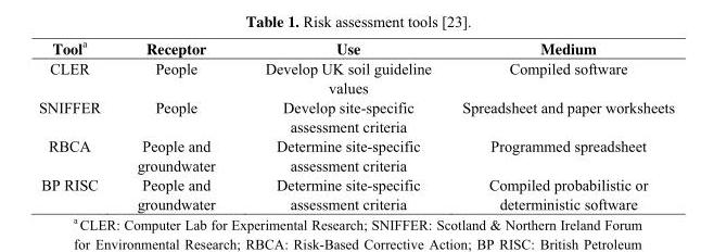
<table><thead><tr><td>Tool<sup>a</sup></td><td>Receptor</td><td>Use</td><td>Medium</td></tr></thead><tbody><tr><td>CLER</td><td>People</td><td>Develop UK soil guideline values</td><td>Compiled software</td></tr><tr><td>SNIFFER</td><td>People</td><td>Develop site-specific assessment criteria</td><td>Spreadsheet and paper worksheets</td></tr><tr><td>RBCA</td><td>People and groundwater</td><td>Determine site-specific assessment criteria</td><td>Programmed spreadsheet</td></tr><tr><td>BP RISC</td><td>People and groundwater</td><td>Determine site-specific assessment criteria</td><td>Compiled probabilistic or deterministic software</td></tr></tbody></table>